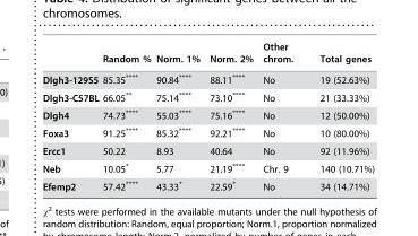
<table><thead><tr><td></td><td>Random %</td><td>Norm. 1%</td><td>Norm. 2%</td><td>Other chrom.</td><td>Total genes</td></tr></thead><tbody><tr><td>Dlgh3-129S5</td><td>85.35****</td><td>90.84****</td><td>88.11****</td><td>No</td><td>19 (52.63%)</td></tr><tr><td>Dlgh3-C57BL</td><td>66.05**</td><td>75.14****</td><td>73.10****</td><td>No</td><td>21 (33.33%)</td></tr><tr><td>Dlgh4</td><td>74.73****</td><td>55.03****</td><td>75.16****</td><td>No</td><td>12 (50.00%)</td></tr><tr><td>Foxa3</td><td>91.25****</td><td>85.32****</td><td>92.21****</td><td>No</td><td>10 (80.00%)</td></tr><tr><td>Ercc1</td><td>50.22</td><td>8.93</td><td>40.64</td><td>No</td><td>92 (11.96%)</td></tr><tr><td>Neb</td><td>10.05*</td><td>5.77</td><td>21.19****</td><td>Chr. 9</td><td>140 (10.71%)</td></tr><tr><td>Efemp2</td><td>57.42****</td><td>43.33*</td><td>22.59*</td><td>No</td><td>34 (14.71%)</td></tr></tbody></table>